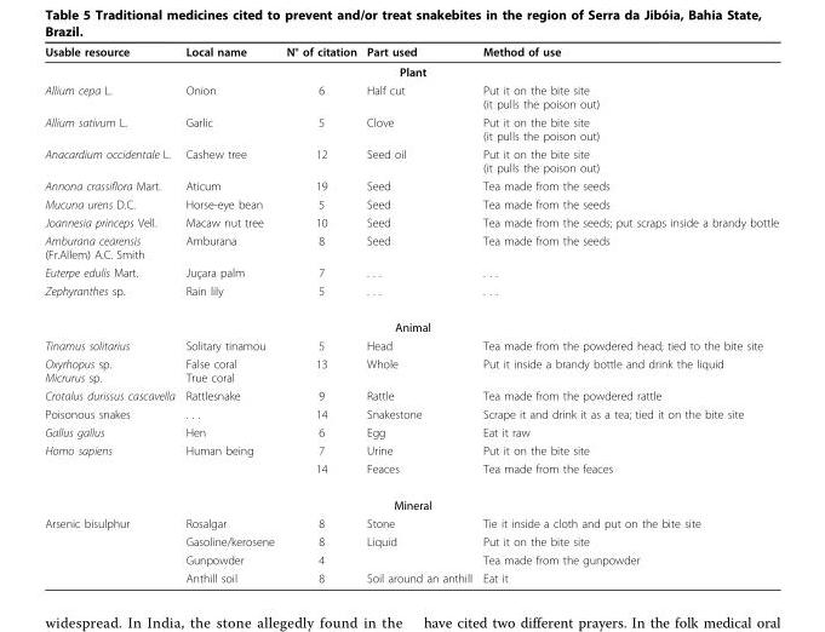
<table><thead><tr><td>Usable resource</td><td>Local name</td><td>N° of citation</td><td>Part used</td><td>Method of use</td></tr></thead><tbody><tr><td colspan="5">Plant</td></tr><tr><td>Allium cepa L.</td><td>Onion</td><td>6</td><td>Half cut</td><td>Put it on the bite site (it pulls the poison out)</td></tr><tr><td>Allium sativum L.</td><td>Garlic</td><td>5</td><td>Clove</td><td>Put it on the bite site (it pulls the poison out)</td></tr><tr><td>Anacardium occidentale L.</td><td>Cashew tree</td><td>12</td><td>Seed oil</td><td>Put it on the bite site (it pulls the poison out)</td></tr><tr><td>Annona crassiflora Mart.</td><td>Aticum</td><td>19</td><td>Seed</td><td>Tea made from the seeds</td></tr><tr><td>Mucuna urens D.C.</td><td>Horse-eye bean</td><td>5</td><td>Seed</td><td>Tea made from the seeds</td></tr><tr><td>Joannesia princeps Vell.</td><td>Macaw nut tree</td><td>10</td><td>Seed</td><td>Tea made from the seeds; put scraps inside a brandy bottle</td></tr><tr><td>Amburana cearensis (Fr.Allem) A.C. Smith</td><td>Amburana</td><td>8</td><td>Seed</td><td>Tea made from the seeds</td></tr><tr><td>Euterpe edulis Mart.</td><td>Juçara palm</td><td>7</td><td>. . .</td><td>. . .</td></tr><tr><td>Zephyranthes sp.</td><td>Rain lily</td><td>5</td><td>. . .</td><td>. . .</td></tr><tr><td colspan="5">Animal</td></tr><tr><td>Tinamus solitarius</td><td>Solitary tinamou</td><td>5</td><td>Head</td><td>Tea made from the powdered head; tied to the bite site</td></tr><tr><td>Oxyrhopus sp. Micrurus sp.</td><td>False coral True coral</td><td>13</td><td>Whole</td><td>Put it inside a brandy bottle and drink the liquid</td></tr><tr><td>Crotalus durissus cascavella</td><td>Rattlesnake</td><td>9</td><td>Rattle</td><td>Tea made from the powdered rattle</td></tr><tr><td>Poisonous snakes</td><td>. . .</td><td>14</td><td>Snakestone</td><td>Scrape it and drink it as a tea; tied it on the bite site</td></tr><tr><td>Gallus gallus</td><td>Hen</td><td>6</td><td>Egg</td><td>Eat it raw</td></tr><tr><td rowspan="2">Homo sapiens</td><td>Human being</td><td>7</td><td>Urine</td><td>Put it on the bite site</td></tr><tr><td></td><td>14</td><td>Feaces</td><td>Tea made from the feaces</td></tr><tr><td colspan="5">Mineral</td></tr><tr><td rowspan="4">Arsenic bisulphur</td><td>Rosalgar</td><td>8</td><td>Stone</td><td>Tie it inside a cloth and put on the bite site</td></tr><tr><td>Gasoline/kerosene</td><td>8</td><td>Liquid</td><td>Put it on the bite site</td></tr><tr><td>Gunpowder</td><td>4</td><td></td><td>Tea made from the gunpowder</td></tr><tr><td>Anthill soil</td><td>8</td><td>Soil around an anthill</td><td>Eat it</td></tr></tbody></table>